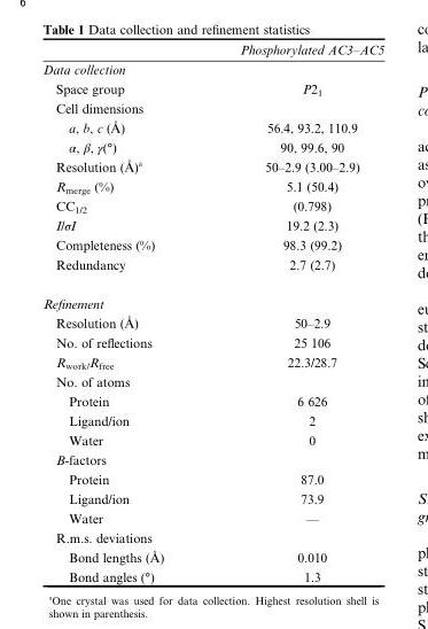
<table><thead><tr><td></td><td>Phosphorylated AC3–AC5</td></tr></thead><tbody><tr><td colspan="2">Data collection</td></tr><tr><td>Space group</td><td>P2<sub>1</sub></td></tr><tr><td colspan="2">Cell dimensions</td></tr><tr><td>a, b, c (Å)</td><td>56.4, 93.2, 110.9</td></tr><tr><td>α, β, γ(°)</td><td>90, 99.6, 90</td></tr><tr><td>Resolution (Å)<sup>a</sup></td><td>50–2.9 (3.00–2.9)</td></tr><tr><td>R<sub>merge</sub> (%)</td><td>5.1 (50.4)</td></tr><tr><td>CC<sub>1/2</sub></td><td>(0.798)</td></tr><tr><td>I/σI</td><td>19.2 (2.3)</td></tr><tr><td>Completeness (%)</td><td>98.3 (99.2)</td></tr><tr><td>Redundancy</td><td>2.7 (2.7)</td></tr><tr><td colspan="2">Refinement</td></tr><tr><td>Resolution (Å)</td><td>50–2.9</td></tr><tr><td>No. of reflections</td><td>25 106</td></tr><tr><td>R<sub>work/</sub>R<sub>free</sub></td><td>22.3/28.7</td></tr><tr><td colspan="2">No. of atoms</td></tr><tr><td>Protein</td><td>6 626</td></tr><tr><td>Ligand/ion</td><td>2</td></tr><tr><td>Water</td><td>0</td></tr><tr><td colspan="2">B-factors</td></tr><tr><td>Protein</td><td>87.0</td></tr><tr><td>Ligand/ion</td><td>73.9</td></tr><tr><td>Water</td><td>—</td></tr><tr><td colspan="2">R.m.s. deviations</td></tr><tr><td>Bond lengths (Å)</td><td>0.010</td></tr><tr><td>Bond angles (°)</td><td>1.3</td></tr></tbody></table>